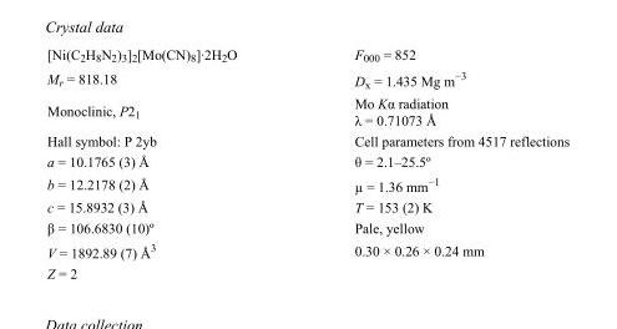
<table><tbody><tr><td>[Ni(C<sub>2</sub>H<sub>8</sub>N<sub>2</sub>)<sub>3</sub>]<sub>2</sub>[Mo(CN)<sub>8</sub>]·2H<sub>2</sub>O</td><td>F<sub>000</sub> = 852</td></tr><tr><td>M<sub>r</sub> = 818.18</td><td>D<sub>x</sub> = 1.435 Mg m<sup>−3</sup></td></tr><tr><td>Monoclinic, P2<sub>1</sub></td><td>Mo Kα radiation λ = 0.71073 Å</td></tr><tr><td>Hall symbol: P 2yb</td><td>Cell parameters from 4517 reflections</td></tr><tr><td>a = 10.1765 (3) Å</td><td>θ = 2.1–25.5º</td></tr><tr><td>b = 12.2178 (2) Å</td><td>µ = 1.36 mm<sup>−1</sup></td></tr><tr><td>c = 15.8932 (3) Å</td><td>T = 153 (2) K</td></tr><tr><td>β = 106.6830 (10)º</td><td>Pale, yellow</td></tr><tr><td>V = 1892.89 (7) Å<sup>3</sup></td><td>0.30 × 0.26 × 0.24 mm</td></tr><tr><td>Z = 2</td><td></td></tr></tbody></table>